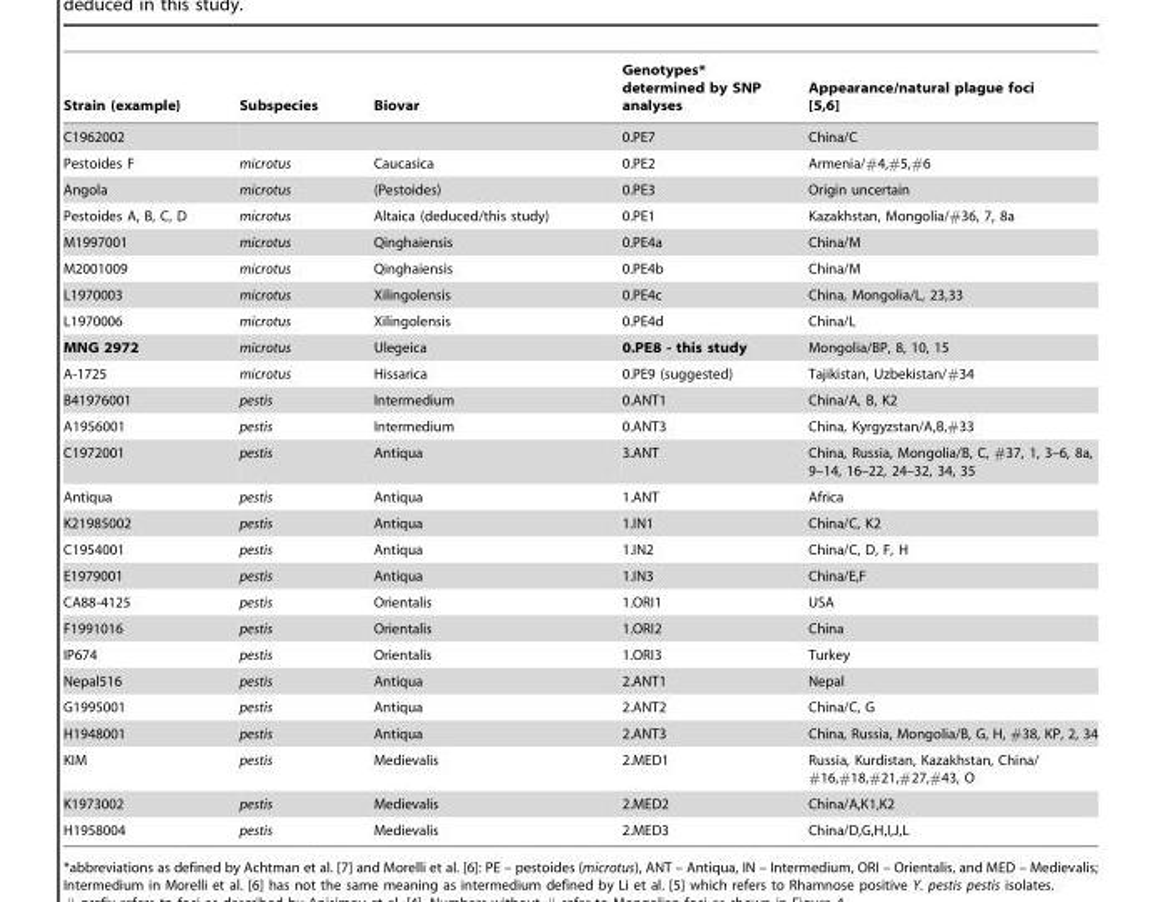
<table><thead><tr><td>Strain (example)</td><td>Subspecies</td><td>Biovar</td><td>Genotypes* determined by SNP analyses</td><td>Appearance/natural plague foci [5,6]</td></tr></thead><tbody><tr><td>C1962002</td><td></td><td></td><td>0.PE7</td><td>China/C</td></tr><tr><td>Pestoides F</td><td>microtus</td><td>Caucasica</td><td>0.PE2</td><td>Armenia/#4,#5,#6</td></tr><tr><td>Angola</td><td>microtus</td><td>(Pestoides)</td><td>0.PE3</td><td>Origin uncertain</td></tr><tr><td>Pestoides A, B, C, D</td><td>microtus</td><td>Altaica (deduced/this study)</td><td>0.PE1</td><td>Kazakhstan, Mongolia/#36, 7, 8a</td></tr><tr><td>M1997001</td><td>microtus</td><td>Qinghaiensis</td><td>0.PE4a</td><td>China/M</td></tr><tr><td>M2001009</td><td>microtus</td><td>Qinghaiensis</td><td>0.PE4b</td><td>China/M</td></tr><tr><td>L1970003</td><td>microtus</td><td>Xilingolensis</td><td>0.PE4c</td><td>China, Mongolia/L, 23,33</td></tr><tr><td>L1970006</td><td>microtus</td><td>Xilingolensis</td><td>0.PE4d</td><td>China/L</td></tr><tr><td>MNG 2972</td><td>microtus</td><td>Ulegeica</td><td>0.PE8 - this study</td><td>Mongolia/BP, 8, 10, 15</td></tr><tr><td>A-1725</td><td>microtus</td><td>Hissarica</td><td>0.PE9 (suggested)</td><td>Tajikistan, Uzbekistan/#34</td></tr><tr><td>B41976001</td><td>pestis</td><td>Intermedium</td><td>0.ANT1</td><td>China/A, B, K2</td></tr><tr><td>A1956001</td><td>pestis</td><td>Intermedium</td><td>0.ANT3</td><td>China, Kyrgyzstan/A,B,#33</td></tr><tr><td>C1972001</td><td>pestis</td><td>Antiqua</td><td>3.ANT</td><td>China, Russia, Mongolia/B, C, #37, 1, 3–6, 8a, 9–14, 16–22, 24–32, 34, 35</td></tr><tr><td>Antiqua</td><td>pestis</td><td>Antiqua</td><td>1.ANT</td><td>Africa</td></tr><tr><td>K21985002</td><td>pestis</td><td>Antiqua</td><td>1.IN1</td><td>China/C, K2</td></tr><tr><td>C1954001</td><td>pestis</td><td>Antiqua</td><td>1.IN2</td><td>China/C, D, F, H</td></tr><tr><td>E1979001</td><td>pestis</td><td>Antiqua</td><td>1.IN3</td><td>China/E,F</td></tr><tr><td>CA88-4125</td><td>pestis</td><td>Orientalis</td><td>1.ORI1</td><td>USA</td></tr><tr><td>F1991016</td><td>pestis</td><td>Orientalis</td><td>1.ORI2</td><td>China</td></tr><tr><td>IP674</td><td>pestis</td><td>Orientalis</td><td>1.ORI3</td><td>Turkey</td></tr><tr><td>Nepal516</td><td>pestis</td><td>Antiqua</td><td>2.ANT1</td><td>Nepal</td></tr><tr><td>G1995001</td><td>pestis</td><td>Antiqua</td><td>2.ANT2</td><td>China/C, G</td></tr><tr><td>H1948001</td><td>pestis</td><td>Antiqua</td><td>2.ANT3</td><td>China, Russia, Mongolia/B, G, H, #38, KP, 2, 34</td></tr><tr><td>KIM</td><td>pestis</td><td>Medievalis</td><td>2.MED1</td><td>Russia, Kurdistan, Kazakhstan, China/ #16,#18,#21,#27,#43, O</td></tr><tr><td>K1973002</td><td>pestis</td><td>Medievalis</td><td>2.MED2</td><td>China/A,K1,K2</td></tr><tr><td>H1958004</td><td>pestis</td><td>Medievalis</td><td>2.MED3</td><td>China/D,G,H,I,J,L</td></tr></tbody></table>